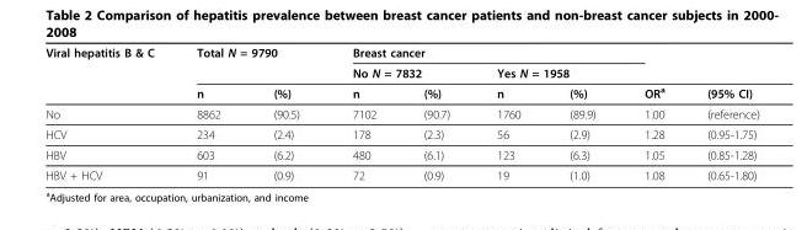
<table><thead><tr><td rowspan="3">Viral hepatitis B &amp; C</td><td colspan="2">Total N = 9790</td><td colspan="4">Breast cancer</td><td rowspan="3">OR<sup>a</sup></td><td rowspan="3">(95% CI)</td></tr><tr><td rowspan="2">n</td><td rowspan="2">(%)</td><td colspan="2">No N = 7832</td><td colspan="2">Yes N = 1958</td></tr><tr><td>n</td><td>(%)</td><td>n</td><td>(%)</td></tr></thead><tbody><tr><td>No</td><td>8862</td><td>(90.5)</td><td>7102</td><td>(90.7)</td><td>1760</td><td>(89.9)</td><td>1.00</td><td>(reference)</td></tr><tr><td>HCV</td><td>234</td><td>(2.4)</td><td>178</td><td>(2.3)</td><td>56</td><td>(2.9)</td><td>1.28</td><td>(0.95-1.75)</td></tr><tr><td>HBV</td><td>603</td><td>(6.2)</td><td>480</td><td>(6.1)</td><td>123</td><td>(6.3)</td><td>1.05</td><td>(0.85-1.28)</td></tr><tr><td>HBV + HCV</td><td>91</td><td>(0.9)</td><td>72</td><td>(0.9)</td><td>19</td><td>(1.0)</td><td>1.08</td><td>(0.65-1.80)</td></tr></tbody></table>